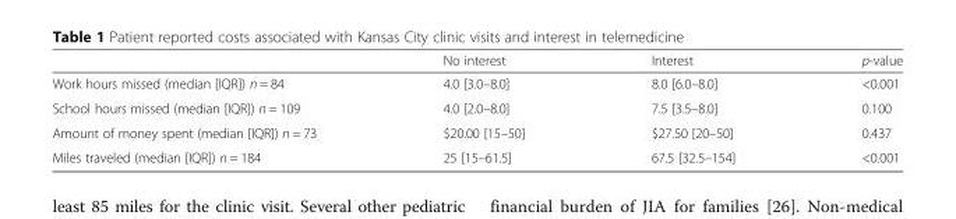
<table><thead><tr><td></td><td>No interest</td><td>Interest</td><td>p-value</td></tr></thead><tbody><tr><td>Work hours missed (median [IQR]) n = 84</td><td>4.0 [3.0–8.0]</td><td>8.0 [6.0–8.0]</td><td>&lt;0.001</td></tr><tr><td>School hours missed (median [IQR]) n = 109</td><td>4.0 [2.0–8.0]</td><td>7.5 [3.5–8.0]</td><td>0.100</td></tr><tr><td>Amount of money spent (median [IQR]) n = 73</td><td>$20.00 [15–50]</td><td>$27.50 [20–50]</td><td>0.437</td></tr><tr><td>Miles traveled (median [IQR]) n = 184</td><td>25 [15–61.5]</td><td>67.5 [32.5–154]</td><td>&lt;0.001</td></tr></tbody></table>